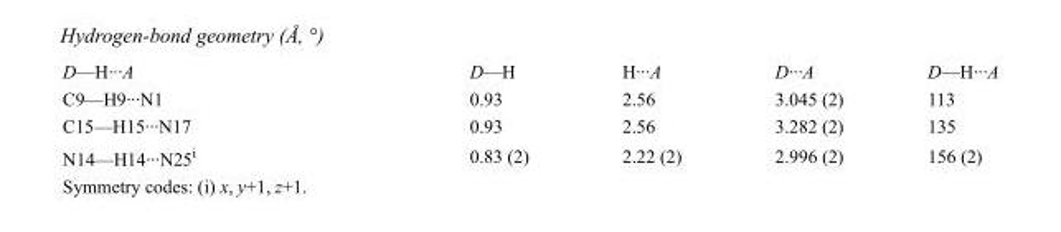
<table><tbody><tr><td>D—H···A</td><td>D—H</td><td>H···A</td><td>D···A</td><td>D—H···A</td></tr><tr><td>C9—H9···N1</td><td>0.93</td><td>2.56</td><td>3.045 (2)</td><td>113</td></tr><tr><td>C15—H15···N17</td><td>0.93</td><td>2.56</td><td>3.282 (2)</td><td>135</td></tr><tr><td>N14—H14···N25<sup>i</sup></td><td>0.83 (2)</td><td>2.22 (2)</td><td>2.996 (2)</td><td>156 (2)</td></tr></tbody></table>